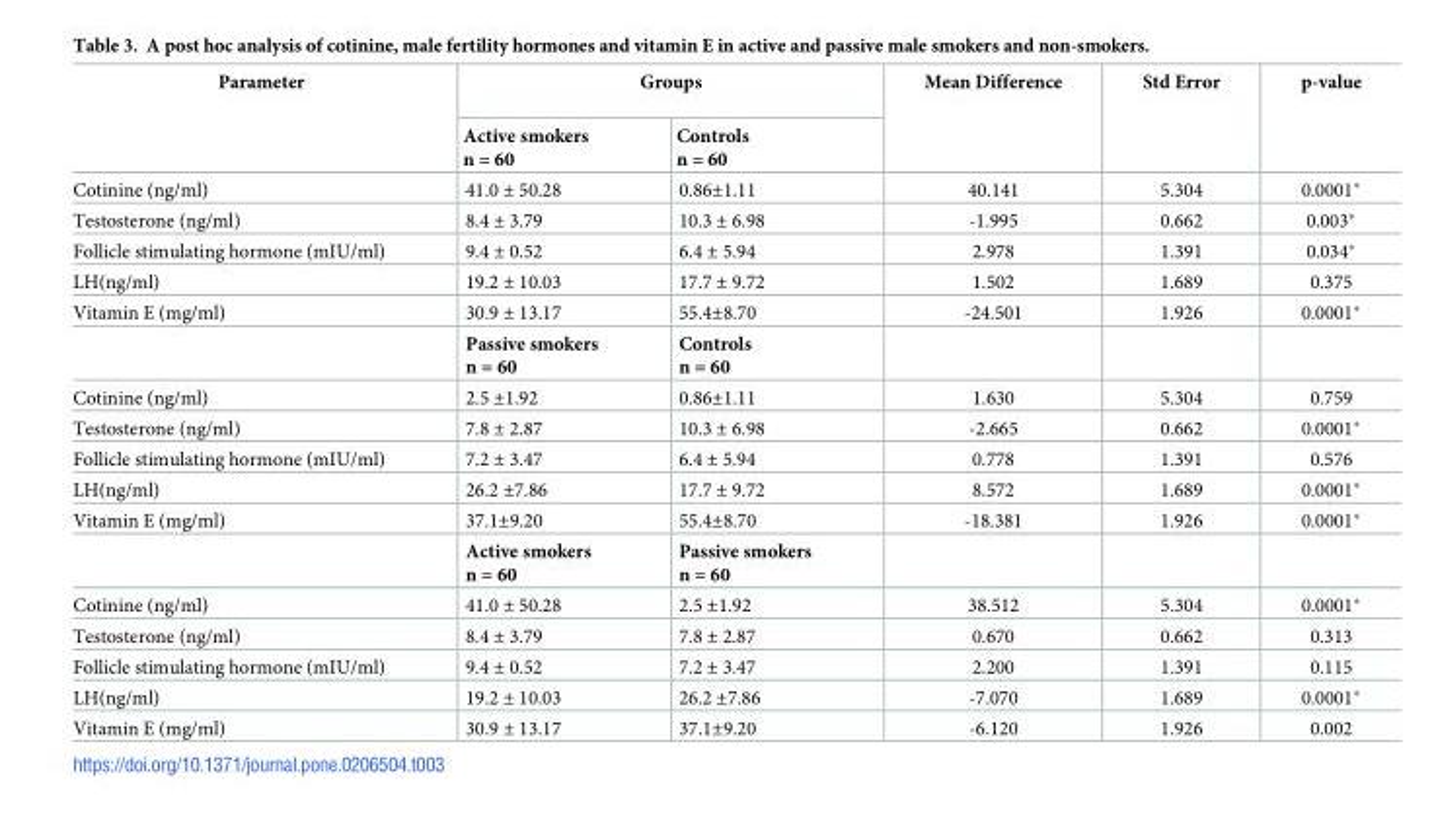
<table><thead><tr><td rowspan="2">Parameter</td><td colspan="2">Groups</td><td rowspan="2">Mean Difference</td><td rowspan="2">Std Error</td><td rowspan="2">p-value</td></tr><tr><td>Active smokers n = 60</td><td>Controls n = 60</td></tr></thead><tbody><tr><td>Cotinine (ng/ml)</td><td>41.0 ± 50.28</td><td>0.86±1.11</td><td>40.141</td><td>5.304</td><td>0.0001*</td></tr><tr><td>Testosterone (ng/ml)</td><td>8.4 ± 3.79</td><td>10.3 ± 6.98</td><td>-1.995</td><td>0.662</td><td>0.003*</td></tr><tr><td>Follicle stimulating hormone (mIU/ml)</td><td>9.4 ± 0.52</td><td>6.4 ± 5.94</td><td>2.978</td><td>1.391</td><td>0.034*</td></tr><tr><td>LH(ng/ml)</td><td>19.2 ± 10.03</td><td>17.7 ± 9.72</td><td>1.502</td><td>1.689</td><td>0.375</td></tr><tr><td rowspan="2">Vitamin E (mg/ml)</td><td>30.9 ± 13.17</td><td>55.4±8.70</td><td>-24.501</td><td>1.926</td><td>0.0001*</td></tr><tr><td>Passive smokers n = 60</td><td>Controls n = 60</td><td></td><td></td><td></td></tr><tr><td>Cotinine (ng/ml)</td><td>2.5 ±1.92</td><td>0.86±1.11</td><td>1.630</td><td>5.304</td><td>0.759</td></tr><tr><td>Testosterone (ng/ml)</td><td>7.8 ± 2.87</td><td>10.3 ± 6.98</td><td>-2.665</td><td>0.662</td><td>0.0001*</td></tr><tr><td>Follicle stimulating hormone (mIU/ml)</td><td>7.2 ± 3.47</td><td>6.4 ± 5.94</td><td>0.778</td><td>1.391</td><td>0.576</td></tr><tr><td>LH(ng/ml)</td><td>26.2 ±7.86</td><td>17.7 ± 9.72</td><td>8.572</td><td>1.689</td><td>0.0001*</td></tr><tr><td rowspan="2">Vitamin E (mg/ml)</td><td>37.1±9.20</td><td>55.4±8.70</td><td>-18.381</td><td>1.926</td><td>0.0001*</td></tr><tr><td>Active smokers n = 60</td><td>Passive smokers n = 60</td><td></td><td></td><td></td></tr><tr><td>Cotinine (ng/ml)</td><td>41.0 ± 50.28</td><td>2.5 ±1.92</td><td>38.512</td><td>5.304</td><td>0.0001*</td></tr><tr><td>Testosterone (ng/ml)</td><td>8.4 ± 3.79</td><td>7.8 ± 2.87</td><td>0.670</td><td>0.662</td><td>0.313</td></tr><tr><td>Follicle stimulating hormone (mIU/ml)</td><td>9.4 ± 0.52</td><td>7.2 ± 3.47</td><td>2.200</td><td>1.391</td><td>0.115</td></tr><tr><td>LH(ng/ml)</td><td>19.2 ± 10.03</td><td>26.2 ±7.86</td><td>-7.070</td><td>1.689</td><td>0.0001*</td></tr><tr><td>Vitamin E (mg/ml)</td><td>30.9 ± 13.17</td><td>37.1±9.20</td><td>-6.120</td><td>1.926</td><td>0.002</td></tr></tbody></table>